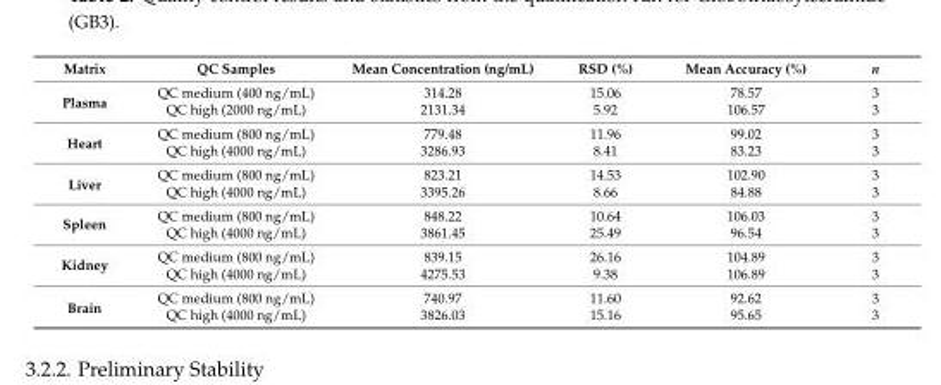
<table><thead><tr><td>Matrix</td><td>QC Samples</td><td>Mean Concentration (ng/mL)</td><td>RSD (%)</td><td>Mean Accuracy (%)</td><td>n</td></tr></thead><tbody><tr><td rowspan="2">Plasma</td><td>QC medium (400 ng/mL)</td><td>314.28</td><td>15.06</td><td>78.57</td><td>3</td></tr><tr><td>QC high (2000 ng/mL)</td><td>2131.34</td><td>5.92</td><td>106.57</td><td>3</td></tr><tr><td rowspan="2">Heart</td><td>QC medium (800 ng/mL)</td><td>779.48</td><td>11.96</td><td>99.02</td><td>3</td></tr><tr><td>QC high (4000 ng/mL)</td><td>3286.93</td><td>8.41</td><td>83.23</td><td>3</td></tr><tr><td rowspan="2">Liver</td><td>QC medium (800 ng/mL)</td><td>823.21</td><td>14.53</td><td>102.90</td><td>3</td></tr><tr><td>QC high (4000 ng/mL)</td><td>3395.26</td><td>8.66</td><td>84.88</td><td>3</td></tr><tr><td rowspan="2">Spleen</td><td>QC medium (800 ng/mL)</td><td>848.22</td><td>10.64</td><td>106.03</td><td>3</td></tr><tr><td>QC high (4000 ng/mL)</td><td>3861.45</td><td>25.49</td><td>96.54</td><td>3</td></tr><tr><td rowspan="2">Kidney</td><td>QC medium (800 ng/mL)</td><td>839.15</td><td>26.16</td><td>104.89</td><td>3</td></tr><tr><td>QC high (4000 ng/mL)</td><td>4275.53</td><td>9.38</td><td>106.89</td><td>3</td></tr><tr><td rowspan="2">Brain</td><td>QC medium (800 ng/mL)</td><td>740.97</td><td>11.60</td><td>92.62</td><td>3</td></tr><tr><td>QC high (4000 ng/mL)</td><td>3826.03</td><td>15.16</td><td>95.65</td><td>3</td></tr></tbody></table>